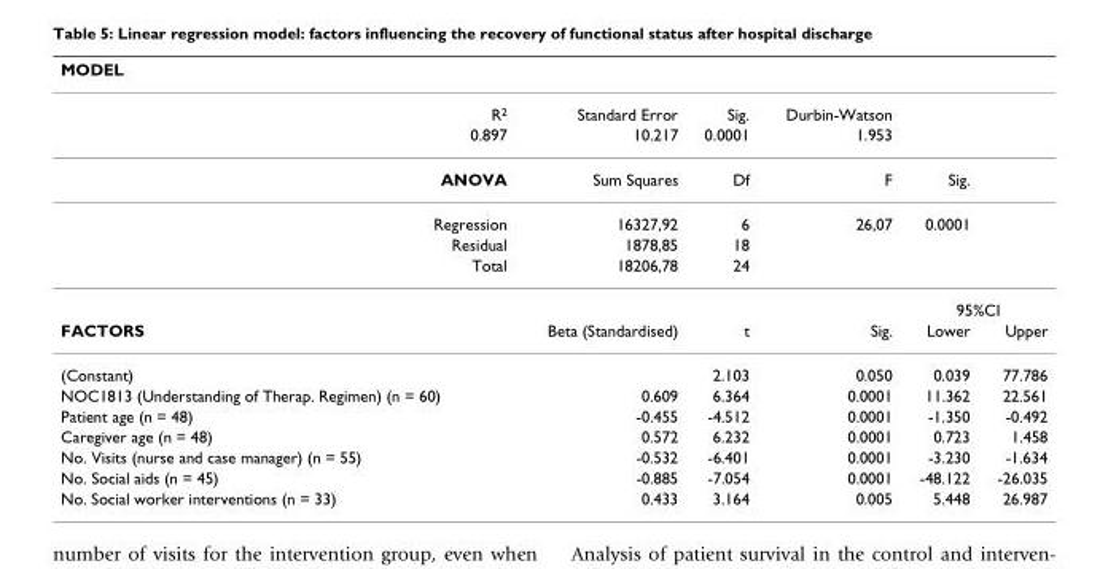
<table><thead><tr><td>MODEL</td><td></td><td></td><td></td><td></td><td></td></tr></thead><tbody><tr><td>R<sup>2</sup></td><td>Standard Error</td><td>Sig.</td><td>Durbin-Watson</td><td></td><td></td></tr><tr><td>0.897</td><td>10.217</td><td>0.0001</td><td>1.953</td><td></td><td></td></tr><tr><td>ANOVA</td><td>Sum Squares</td><td>Df</td><td>F</td><td>Sig.</td><td></td></tr><tr><td>Regression</td><td>16327,92</td><td>6</td><td>26,07</td><td>0.0001</td><td></td></tr><tr><td>Residual</td><td>1878,85</td><td>18</td><td></td><td></td><td></td></tr><tr><td rowspan="2">Total</td><td>18206,78</td><td>24</td><td></td><td></td><td></td></tr><tr><td></td><td></td><td></td><td colspan="2">95%CI</td></tr><tr><td>FACTORS</td><td>Beta (Standardised)</td><td>t</td><td>Sig.</td><td>Lower</td><td>Upper</td></tr><tr><td>(Constant)</td><td></td><td>2.103</td><td>0.050</td><td>0.039</td><td>77.786</td></tr><tr><td>NOC1813 (Understanding of Therap. Regimen) (n = 60)</td><td>0.609</td><td>6.364</td><td>0.0001</td><td>11.362</td><td>22.561</td></tr><tr><td>Patient age (n = 48)</td><td>-0.455</td><td>-4.512</td><td>0.0001</td><td>-1.350</td><td>-0.492</td></tr><tr><td>Caregiver age (n = 48)</td><td>0.572</td><td>6.232</td><td>0.0001</td><td>0.723</td><td>1.458</td></tr><tr><td>No. Visits (nurse and case manager) (n = 55)</td><td>-0.532</td><td>-6.401</td><td>0.0001</td><td>-3.230</td><td>-1.634</td></tr><tr><td>No. Social aids (n = 45)</td><td>-0.885</td><td>-7.054</td><td>0.0001</td><td>-48.122</td><td>-26.035</td></tr><tr><td>No. Social worker interventions (n = 33)</td><td>0.433</td><td>3.164</td><td>0.005</td><td>5.448</td><td>26.987</td></tr></tbody></table>